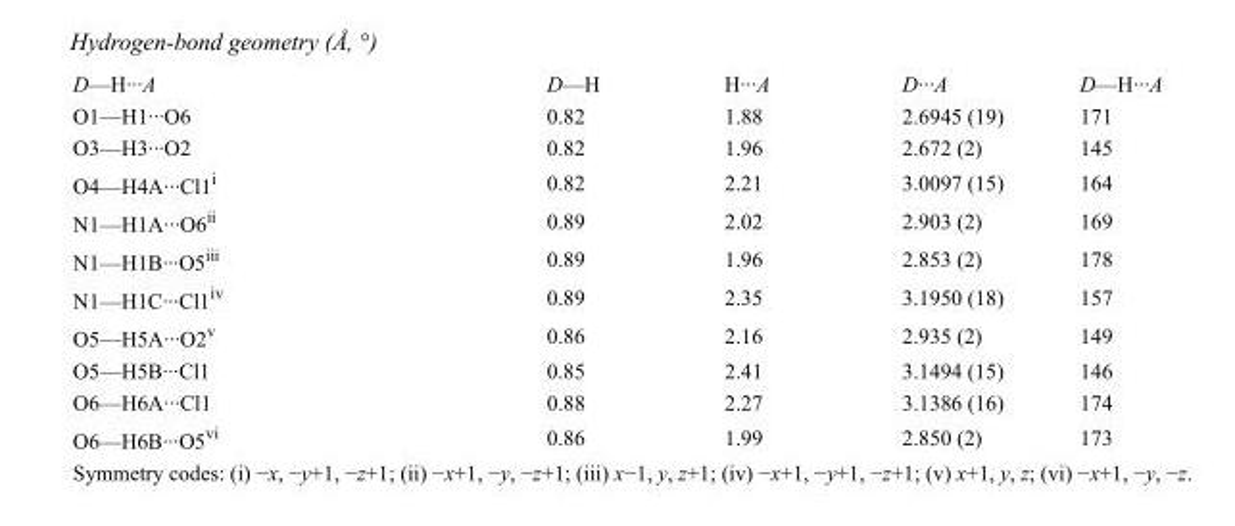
<table><tbody><tr><td>D—H···A</td><td>D—H</td><td>H···A</td><td>D···A</td><td>D—H···A</td></tr><tr><td>O1—H1···O6</td><td>0.82</td><td>1.88</td><td>2.6945 (19)</td><td>171</td></tr><tr><td>O3—H3···O2</td><td>0.82</td><td>1.96</td><td>2.672 (2)</td><td>145</td></tr><tr><td>O4—H4A···Cl1<sup>i</sup></td><td>0.82</td><td>2.21</td><td>3.0097 (15)</td><td>164</td></tr><tr><td>N1—H1A···O6<sup>ii</sup></td><td>0.89</td><td>2.02</td><td>2.903 (2)</td><td>169</td></tr><tr><td>N1—H1B···O5<sup>iii</sup></td><td>0.89</td><td>1.96</td><td>2.853 (2)</td><td>178</td></tr><tr><td>N1—H1C···Cl1<sup>iv</sup></td><td>0.89</td><td>2.35</td><td>3.1950 (18)</td><td>157</td></tr><tr><td>O5—H5A···O2<sup>v</sup></td><td>0.86</td><td>2.16</td><td>2.935 (2)</td><td>149</td></tr><tr><td>O5—H5B···Cl1</td><td>0.85</td><td>2.41</td><td>3.1494 (15)</td><td>146</td></tr><tr><td>O6—H6A···Cl1</td><td>0.88</td><td>2.27</td><td>3.1386 (16)</td><td>174</td></tr><tr><td>O6—H6B···O5<sup>vi</sup></td><td>0.86</td><td>1.99</td><td>2.850 (2)</td><td>173</td></tr></tbody></table>